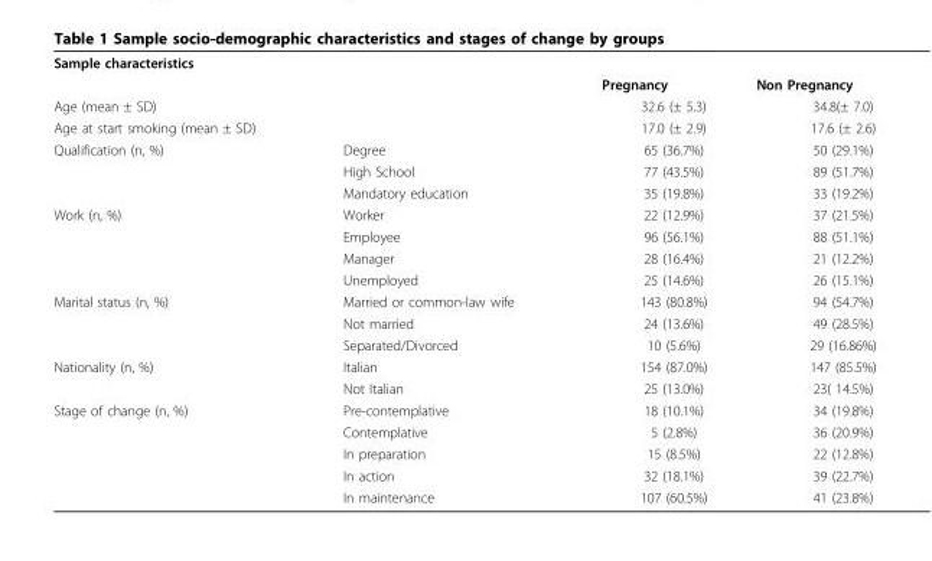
<table><tbody><tr><td colspan="4">Sample characteristics</td></tr><tr><td></td><td></td><td>Pregnancy</td><td>Non Pregnancy</td></tr><tr><td>Age (mean ± SD)</td><td></td><td>32.6 (± 5.3)</td><td>34.8(± 7.0)</td></tr><tr><td>Age at start smoking (mean ± SD)</td><td></td><td>17.0 (± 2.9)</td><td>17.6 (± 2.6)</td></tr><tr><td rowspan="3">Qualification (n, %)</td><td>Degree</td><td>65 (36.7%)</td><td>50 (29.1%)</td></tr><tr><td>High School</td><td>77 (43.5%)</td><td>89 (51.7%)</td></tr><tr><td>Mandatory education</td><td>35 (19.8%)</td><td>33 (19.2%)</td></tr><tr><td rowspan="4">Work (n, %)</td><td>Worker</td><td>22 (12.9%)</td><td>37 (21.5%)</td></tr><tr><td>Employee</td><td>96 (56.1%)</td><td>88 (51.1%)</td></tr><tr><td>Manager</td><td>28 (16.4%)</td><td>21 (12.2%)</td></tr><tr><td>Unemployed</td><td>25 (14.6%)</td><td>26 (15.1%)</td></tr><tr><td rowspan="3">Marital status (n, %)</td><td>Married or common-law wife</td><td>143 (80.8%)</td><td>94 (54.7%)</td></tr><tr><td>Not married</td><td>24 (13.6%)</td><td>49 (28.5%)</td></tr><tr><td>Separated/Divorced</td><td>10 (5.6%)</td><td>29 (16.86%)</td></tr><tr><td rowspan="2">Nationality (n, %)</td><td>Italian</td><td>154 (87.0%)</td><td>147 (85.5%)</td></tr><tr><td>Not Italian</td><td>25 (13.0%)</td><td>23( 14.5%)</td></tr><tr><td rowspan="5">Stage of change (n, %)</td><td>Pre-contemplative</td><td>18 (10.1%)</td><td>34 (19.8%)</td></tr><tr><td>Contemplative</td><td>5 (2.8%)</td><td>36 (20.9%)</td></tr><tr><td>In preparation</td><td>15 (8.5%)</td><td>22 (12.8%)</td></tr><tr><td>In action</td><td>32 (18.1%)</td><td>39 (22.7%)</td></tr><tr><td>In maintenance</td><td>107 (60.5%)</td><td>41 (23.8%)</td></tr></tbody></table>